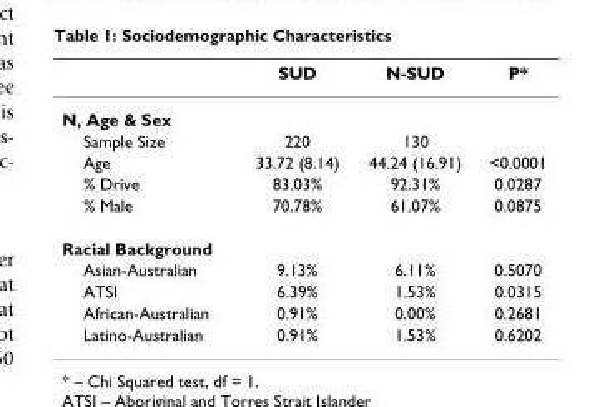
<table><thead><tr><td></td><td>SUD</td><td>N-SUD</td><td>P*</td></tr></thead><tbody><tr><td colspan="4">N, Age &amp; Sex</td></tr><tr><td>Sample Size</td><td>220</td><td>130</td><td></td></tr><tr><td>Age</td><td>33.72 (8.14)</td><td>44.24 (16.91)</td><td>&lt;0.0001</td></tr><tr><td>% Drive</td><td>83.03%</td><td>92.31%</td><td>0.0287</td></tr><tr><td>% Male</td><td>70.78%</td><td>61.07%</td><td>0.0875</td></tr><tr><td colspan="4">Racial Background</td></tr><tr><td>Asian-Australian</td><td>9.13%</td><td>6.11%</td><td>0.5070</td></tr><tr><td>ATSI</td><td>6.39%</td><td>1.53%</td><td>0.0315</td></tr><tr><td>African-Australian</td><td>0.91%</td><td>0.00%</td><td>0.2681</td></tr><tr><td>Latino-Australian</td><td>0.91%</td><td>1.53%</td><td>0.6202</td></tr></tbody></table>